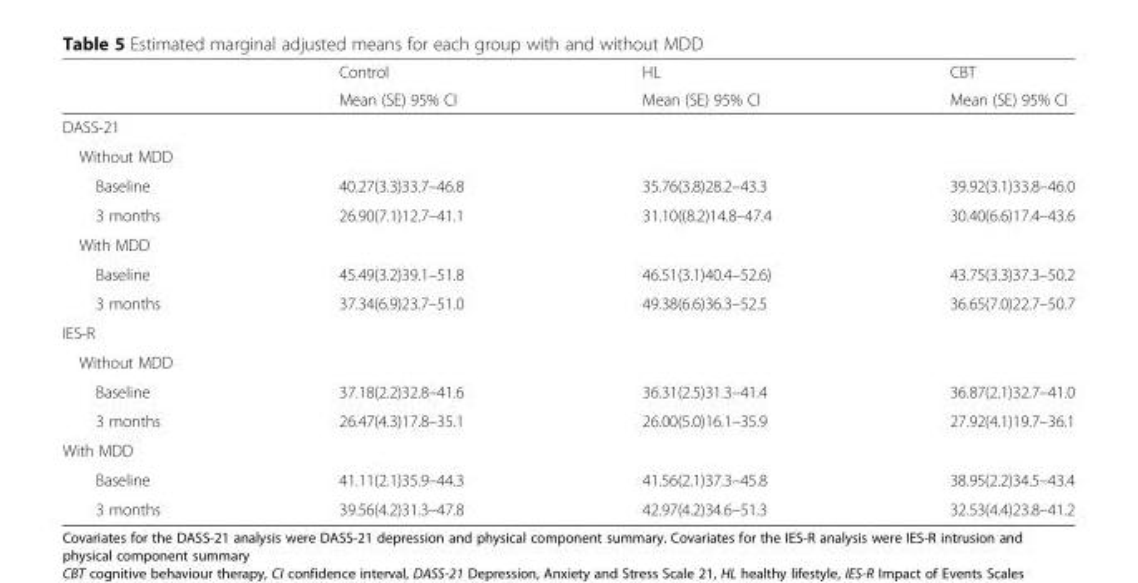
<table><thead><tr><td rowspan="2"></td><td rowspan="2">Control Mean (SE) 95% CI</td><td rowspan="2">HL Mean (SE) 95% CI</td><td rowspan="2">CBT Mean (SE) 95% CI</td></tr><tr></tr></thead><tbody><tr><td colspan="4">DASS-21</td></tr><tr><td colspan="4">Without MDD</td></tr><tr><td>Baseline</td><td>40.27(3.3)33.7–46.8</td><td>35.76(3.8)28.2–43.3</td><td>39.92(3.1)33.8–46.0</td></tr><tr><td>3 months</td><td>26.90(7.1)12.7–41.1</td><td>31.10((8.2)14.8–47.4</td><td>30.40(6.6)17.4–43.6</td></tr><tr><td colspan="4">With MDD</td></tr><tr><td>Baseline</td><td>45.49(3.2)39.1–51.8</td><td>46.51(3.1)40.4–52.6)</td><td>43.75(3.3)37.3–50.2</td></tr><tr><td>3 months</td><td>37.34(6.9)23.7–51.0</td><td>49.38(6.6)36.3–52.5</td><td>36.65(7.0)22.7–50.7</td></tr><tr><td colspan="4">IES-R</td></tr><tr><td colspan="4">Without MDD</td></tr><tr><td>Baseline</td><td>37.18(2.2)32.8–41.6</td><td>36.31(2.5)31.3–41.4</td><td>36.87(2.1)32.7–41.0</td></tr><tr><td>3 months</td><td>26.47(4.3)17.8–35.1</td><td>26.00(5.0)16.1–35.9</td><td>27.92(4.1)19.7–36.1</td></tr><tr><td colspan="4">With MDD</td></tr><tr><td>Baseline</td><td>41.11(2.1)35.9–44.3</td><td>41.56(2.1)37.3–45.8</td><td>38.95(2.2)34.5–43.4</td></tr><tr><td>3 months</td><td>39.56(4.2)31.3–47.8</td><td>42.97(4.2)34.6–51.3</td><td>32.53(4.4)23.8–41.2</td></tr></tbody></table>